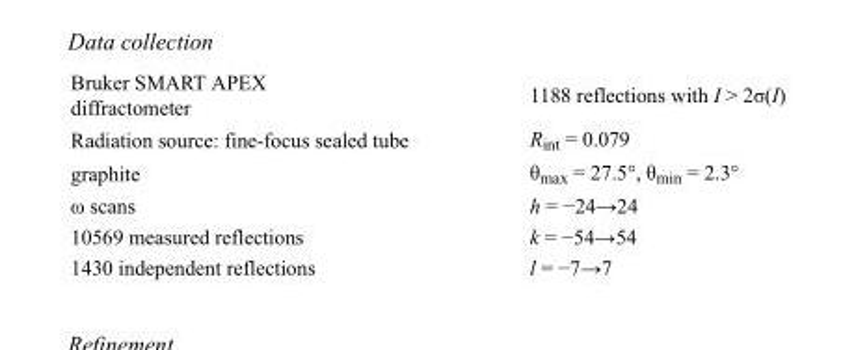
<table><tbody><tr><td>Bruker SMART APEX diffractometer</td><td>1188 reflections with I &gt; 2σ(I)</td></tr><tr><td>Radiation source: fine-focus sealed tube</td><td>R<sub>int</sub> = 0.079</td></tr><tr><td>graphite</td><td>θ<sub>max</sub> = 27.5°, θ<sub>min</sub> = 2.3°</td></tr><tr><td>ω scans</td><td>h = −24→24</td></tr><tr><td>10569 measured reflections</td><td>k = −54→54</td></tr><tr><td>1430 independent reflections</td><td>l = −7→7</td></tr></tbody></table>